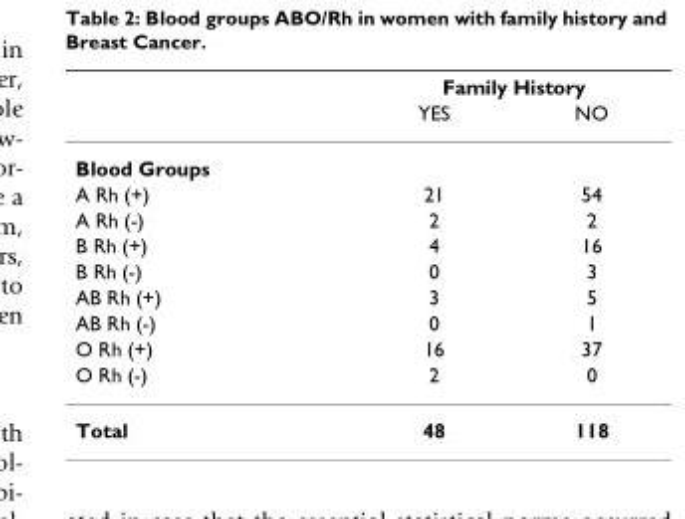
<table><thead><tr><td rowspan="2"></td><td colspan="2">Family History</td></tr><tr><td>YES</td><td>NO</td></tr></thead><tbody><tr><td colspan="3">Blood Groups</td></tr><tr><td>A Rh (+)</td><td>21</td><td>54</td></tr><tr><td>A Rh (-)</td><td>2</td><td>2</td></tr><tr><td>B Rh (+)</td><td>4</td><td>16</td></tr><tr><td>B Rh (-)</td><td>0</td><td>3</td></tr><tr><td>AB Rh (+)</td><td>3</td><td>5</td></tr><tr><td>AB Rh (-)</td><td>0</td><td>1</td></tr><tr><td>O Rh (+)</td><td>16</td><td>37</td></tr><tr><td>O Rh (-)</td><td>2</td><td>0</td></tr><tr><td>Total</td><td>48</td><td>118</td></tr></tbody></table>